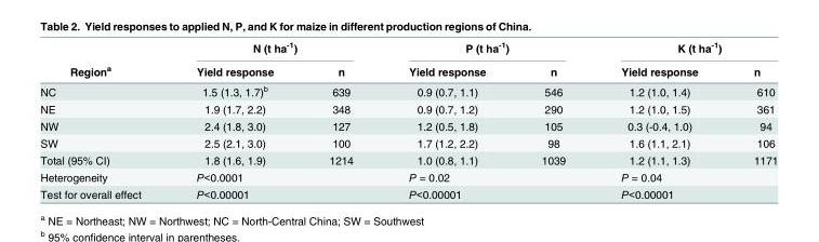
<table><thead><tr><td rowspan="2">Region<sup>a</sup></td><td colspan="2">N (t ha<sup>-1</sup>)</td><td colspan="2">P (t ha<sup>-1</sup>)</td><td colspan="2">K (t ha<sup>-1</sup>)</td></tr><tr><td>Yield response</td><td>n</td><td>Yield response</td><td>n</td><td>Yield response</td><td>n</td></tr></thead><tbody><tr><td>NC</td><td>1.5 (1.3, 1.7)<sup>b</sup></td><td>639</td><td>0.9 (0.7, 1.1)</td><td>546</td><td>1.2 (1.0, 1.4)</td><td>610</td></tr><tr><td>NE</td><td>1.9 (1.7, 2.2)</td><td>348</td><td>0.9 (0.7, 1.2)</td><td>290</td><td>1.2 (1.0, 1.5)</td><td>361</td></tr><tr><td>NW</td><td>2.4 (1.8, 3.0)</td><td>127</td><td>1.2 (0.5, 1.8)</td><td>105</td><td>0.3 (-0.4, 1.0)</td><td>94</td></tr><tr><td>SW</td><td>2.5 (2.1, 3.0)</td><td>100</td><td>1.7 (1.2, 2.2)</td><td>98</td><td>1.6 (1.1, 2.1)</td><td>106</td></tr><tr><td>Total (95% CI)</td><td>1.8 (1.6, 1.9)</td><td>1214</td><td>1.0 (0.8, 1.1)</td><td>1039</td><td>1.2 (1.1, 1.3)</td><td>1171</td></tr><tr><td>Heterogeneity</td><td colspan="2">P&lt;0.0001</td><td colspan="2">P = 0.02</td><td colspan="2">P = 0.04</td></tr><tr><td>Test for overall effect</td><td colspan="2">P&lt;0.00001</td><td colspan="2">P&lt;0.00001</td><td colspan="2">P&lt;0.00001</td></tr></tbody></table>